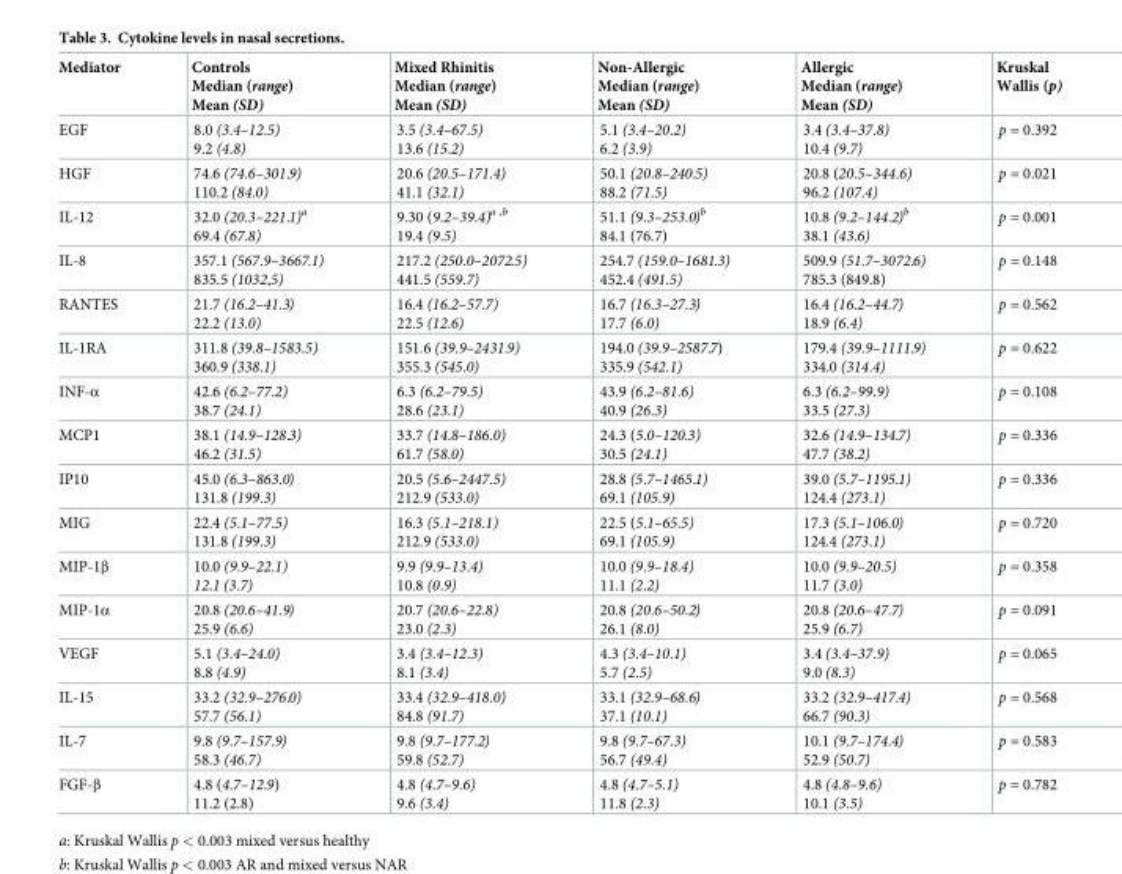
<table><thead><tr><td>Mediator</td><td>Controls Median (range) Mean (SD)</td><td>Mixed Rhinitis Median (range) Mean (SD)</td><td>Non-Allergic Median (range) Mean (SD)</td><td>Allergic Median (range) Mean (SD)</td><td>Kruskal Wallis (p)</td></tr></thead><tbody><tr><td>EGF</td><td>8.0 (3.4–12.5) 9.2 (4.8)</td><td>3.5 (3.4–67.5) 13.6 (15.2)</td><td>5.1 (3.4–20.2) 6.2 (3.9)</td><td>3.4 (3.4–37.8) 10.4 (9.7)</td><td>p = 0.392</td></tr><tr><td>HGF</td><td>74.6 (74.6–301.9) 110.2 (84.0)</td><td>20.6 (20.5–171.4) 41.1 (32.1)</td><td>50.1 (20.8–240.5) 88.2 (71.5)</td><td>20.8 (20.5–344.6) 96.2 (107.4)</td><td>p = 0.021</td></tr><tr><td>IL-12</td><td>32.0 (20.3–221.1)<sup>a</sup> 69.4 (67.8)</td><td>9.30 (9.2–39.4)<sup>a ,b</sup> 19.4 (9.5)</td><td>51.1 (9.3–253.0)<sup>b</sup> 84.1 (76.7)</td><td>10.8 (9.2–144.2)<sup>b</sup> 38.1 (43.6)</td><td>p = 0.001</td></tr><tr><td>IL-8</td><td>357.1 (567.9–3667.1) 835.5 (1032,5)</td><td>217.2 (250.0–2072.5) 441.5 (559.7)</td><td>254.7 (159.0–1681.3) 452.4 (491.5)</td><td>509.9 (51.7–3072.6) 785.3 (849.8)</td><td>p = 0.148</td></tr><tr><td>RANTES</td><td>21.7 (16.2–41.3) 22.2 (13.0)</td><td>16.4 (16.2–57.7) 22.5 (12.6)</td><td>16.7 (16.3–27.3) 17.7 (6.0)</td><td>16.4 (16.2–44.7) 18.9 (6.4)</td><td>p = 0.562</td></tr><tr><td>IL-1RA</td><td>311.8 (39.8–1583.5) 360.9 (338.1)</td><td>151.6 (39.9–2431.9) 355.3 (545.0)</td><td>194.0 (39.9–2587.7) 335.9 (542.1)</td><td>179.4 (39.9–1111.9) 334.0 (314.4)</td><td>p = 0.622</td></tr><tr><td>INF-α</td><td>42.6 (6.2–77.2) 38.7 (24.1)</td><td>6.3 (6.2–79.5) 28.6 (23.1)</td><td>43.9 (6.2–81.6) 40.9 (26.3)</td><td>6.3 (6.2–99.9) 33.5 (27.3)</td><td>p = 0.108</td></tr><tr><td>MCP1</td><td>38.1 (14.9–128.3) 46.2 (31.5)</td><td>33.7 (14.8–186.0) 61.7 (58.0)</td><td>24.3 (5.0–120.3) 30.5 (24.1)</td><td>32.6 (14.9–134.7) 47.7 (38.2)</td><td>p = 0.336</td></tr><tr><td>IP10</td><td>45.0 (6.3–863.0) 131.8 (199.3)</td><td>20.5 (5.6–2447.5) 212.9 (533.0)</td><td>28.8 (5.7–1465.1) 69.1 (105.9)</td><td>39.0 (5.7–1195.1) 124.4 (273.1)</td><td>p = 0.336</td></tr><tr><td>MIG</td><td>22.4 (5.1–77.5) 131.8 (199.3)</td><td>16.3 (5.1–218.1) 212.9 (533.0)</td><td>22.5 (5.1–65.5) 69.1 (105.9)</td><td>17.3 (5.1–106.0) 124.4 (273.1)</td><td>p = 0.720</td></tr><tr><td>MIP-1β</td><td>10.0 (9.9–22.1) 12.1 (3.7)</td><td>9.9 (9.9–13.4) 10.8 (0.9)</td><td>10.0 (9.9–18.4) 11.1 (2.2)</td><td>10.0 (9.9–20.5) 11.7 (3.0)</td><td>p = 0.358</td></tr><tr><td>MIP-1α</td><td>20.8 (20.6–41.9) 25.9 (6.6)</td><td>20.7 (20.6–22.8) 23.0 (2.3)</td><td>20.8 (20.6–50.2) 26.1 (8.0)</td><td>20.8 (20.6–47.7) 25.9 (6.7)</td><td>p = 0.091</td></tr><tr><td>VEGF</td><td>5.1 (3.4–24.0) 8.8 (4.9)</td><td>3.4 (3.4–12.3) 8.1 (3.4)</td><td>4.3 (3.4–10.1) 5.7 (2.5)</td><td>3.4 (3.4–37.9) 9.0 (8.3)</td><td>p = 0.065</td></tr><tr><td>IL-15</td><td>33.2 (32.9–276.0) 57.7 (56.1)</td><td>33.4 (32.9–418.0) 84.8 (91.7)</td><td>33.1 (32.9–68.6) 37.1 (10.1)</td><td>33.2 (32.9–417.4) 66.7 (90.3)</td><td>p = 0.568</td></tr><tr><td>IL-7</td><td>9.8 (9.7–157.9) 58.3 (46.7)</td><td>9.8 (9.7–177.2) 59.8 (52.7)</td><td>9.8 (9.7–67.3) 56.7 (49.4)</td><td>10.1 (9.7–174.4) 52.9 (50.7)</td><td>p = 0.583</td></tr><tr><td>FGF-β</td><td>4.8 (4.7–12.9) 11.2 (2.8)</td><td>4.8 (4.7–9.6) 9.6 (3.4)</td><td>4.8 (4.7–5.1) 11.8 (2.3)</td><td>4.8 (4.8–9.6) 10.1 (3.5)</td><td>p = 0.782</td></tr></tbody></table>